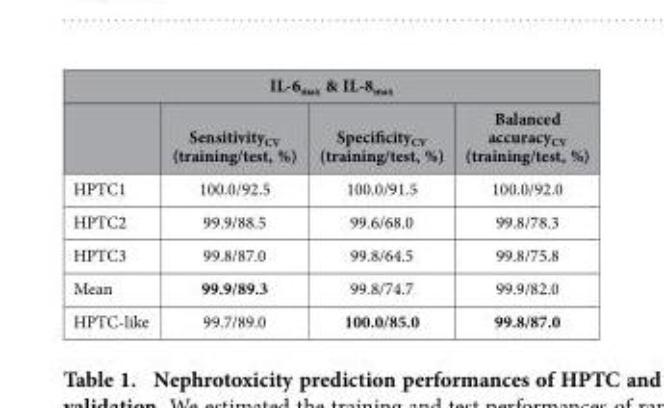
<table><thead><tr><td colspan="4">IL-6<sub>max</sub> &amp; IL-8<sub>max</sub></td></tr><tr><td></td><td>Sensitivity<sub>CV</sub> (training/test, %)</td><td>Specificity<sub>CV</sub> (training/test, %)</td><td>Balanced accuracy<sub>CV</sub> (training/test, %)</td></tr></thead><tbody><tr><td>HPTC1</td><td>100.0/92.5</td><td>100.0/91.5</td><td>100.0/92.0</td></tr><tr><td>HPTC2</td><td>99.9/88.5</td><td>99.6/68.0</td><td>99.8/78.3</td></tr><tr><td>HPTC3</td><td>99.8/87.0</td><td>99.8/64.5</td><td>99.8/75.8</td></tr><tr><td>Mean</td><td>99.9/89.3</td><td>99.8/74.7</td><td>99.9/82.0</td></tr><tr><td>HPTC-like</td><td>99.7/89.0</td><td>100.0/85.0</td><td>99.8/87.0</td></tr></tbody></table>